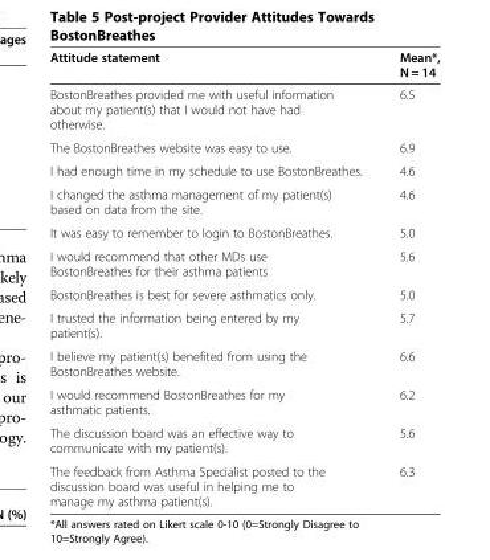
<table><thead><tr><td>Attitude statement</td><td>Mean*, N = 14</td></tr></thead><tbody><tr><td>BostonBreathes provided me with useful information about my patient(s) that I would not have had otherwise.</td><td>6.5</td></tr><tr><td>The BostonBreathes website was easy to use.</td><td>6.9</td></tr><tr><td>I had enough time in my schedule to use BostonBreathes.</td><td>4.6</td></tr><tr><td>I changed the asthma management of my patient(s) based on data from the site.</td><td>4.6</td></tr><tr><td>It was easy to remember to login to BostonBreathes.</td><td>5.0</td></tr><tr><td>I would recommend that other MDs use BostonBreathes for their asthma patients</td><td>5.6</td></tr><tr><td>BostonBreathes is best for severe asthmatics only.</td><td>5.0</td></tr><tr><td>I trusted the information being entered by my patient(s).</td><td>5.7</td></tr><tr><td>I believe my patient(s) benefited from using the BostonBreathes website.</td><td>6.6</td></tr><tr><td>I would recommend BostonBreathes for my asthmatic patients.</td><td>6.2</td></tr><tr><td>The discussion board was an effective way to communicate with my patient(s).</td><td>5.6</td></tr><tr><td>The feedback from Asthma Specialist posted to the discussion board was useful in helping me to manage my asthma patient(s).</td><td>6.3</td></tr></tbody></table>